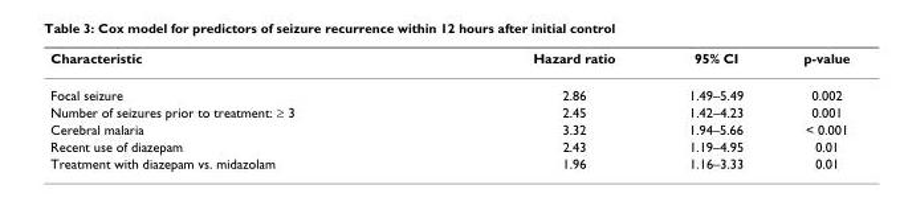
<table><thead><tr><td>Characteristic</td><td>Hazard ratio</td><td>95% CI</td><td>p-value</td></tr></thead><tbody><tr><td>Focal seizure</td><td>2.86</td><td>1.49–5.49</td><td>0.002</td></tr><tr><td>Number of seizures prior to treatment: ≥ 3</td><td>2.45</td><td>1.42–4.23</td><td>0.001</td></tr><tr><td>Cerebral malaria</td><td>3.32</td><td>1.94–5.66</td><td>&lt; 0.001</td></tr><tr><td>Recent use of diazepam</td><td>2.43</td><td>1.19–4.95</td><td>0.01</td></tr><tr><td>Treatment with diazepam vs. midazolam</td><td>1.96</td><td>1.16–3.33</td><td>0.01</td></tr></tbody></table>